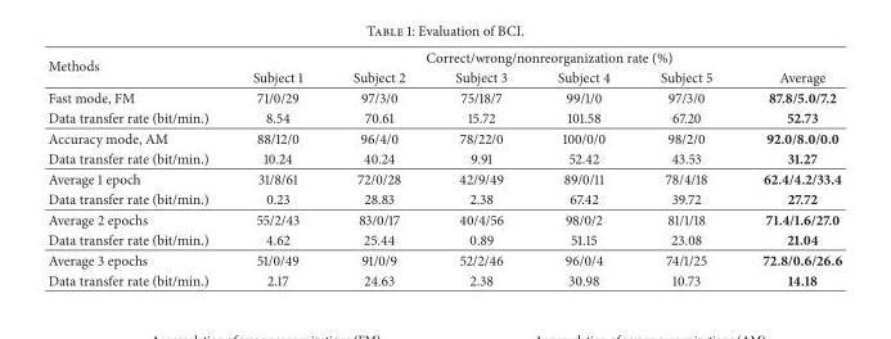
<table><thead><tr><td rowspan="2">Methods</td><td colspan="6">Correct/wrong/nonreorganization rate (%)</td></tr><tr><td>Subject 1</td><td>Subject 2</td><td>Subject 3</td><td>Subject 4</td><td>Subject 5</td><td>Average</td></tr></thead><tbody><tr><td>Fast mode, FM</td><td>71/0/29</td><td>97/3/0</td><td>75/18/7</td><td>99/1/0</td><td>97/3/0</td><td>87.8/5.0/7.2</td></tr><tr><td>Data transfer rate (bit/min.)</td><td>8.54</td><td>70.61</td><td>15.72</td><td>101.58</td><td>67.20</td><td>52.73</td></tr><tr><td>Accuracy mode, AM</td><td>88/12/0</td><td>96/4/0</td><td>78/22/0</td><td>100/0/0</td><td>98/2/0</td><td>92.0/8.0/0.0</td></tr><tr><td>Data transfer rate (bit/min.)</td><td>10.24</td><td>40.24</td><td>9.91</td><td>52.42</td><td>43.53</td><td>31.27</td></tr><tr><td>Average 1 epoch</td><td>31/8/61</td><td>72/0/28</td><td>42/9/49</td><td>89/0/11</td><td>78/4/18</td><td>62.4/4.2/33.4</td></tr><tr><td>Data transfer rate (bit/min.)</td><td>0.23</td><td>28.83</td><td>2.38</td><td>67.42</td><td>39.72</td><td>27.72</td></tr><tr><td>Average 2 epochs</td><td>55/2/43</td><td>83/0/17</td><td>40/4/56</td><td>98/0/2</td><td>81/1/18</td><td>71.4/1.6/27.0</td></tr><tr><td>Data transfer rate (bit/min.)</td><td>4.62</td><td>25.44</td><td>0.89</td><td>51.15</td><td>23.08</td><td>21.04</td></tr><tr><td>Average 3 epochs</td><td>51/0/49</td><td>91/0/9</td><td>52/2/46</td><td>96/0/4</td><td>74/1/25</td><td>72.8/0.6/26.6</td></tr><tr><td>Data transfer rate (bit/min.)</td><td>2.17</td><td>24.63</td><td>2.38</td><td>30.98</td><td>10.73</td><td>14.18</td></tr></tbody></table>